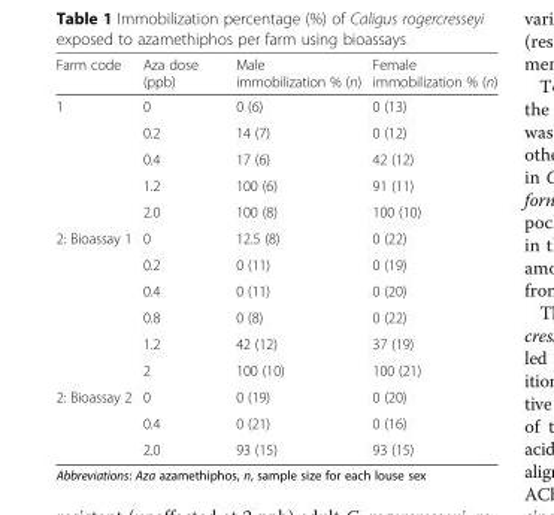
<table><thead><tr><td>Farm code</td><td>Aza dose (ppb)</td><td>Male immobilization % (n)</td><td>Female immobilization % (n)</td></tr></thead><tbody><tr><td rowspan="5">1</td><td>0</td><td>0 (6)</td><td>0 (13)</td></tr><tr><td>0.2</td><td>14 (7)</td><td>0 (12)</td></tr><tr><td>0.4</td><td>17 (6)</td><td>42 (12)</td></tr><tr><td>1.2</td><td>100 (6)</td><td>91 (11)</td></tr><tr><td>2.0</td><td>100 (8)</td><td>100 (10)</td></tr><tr><td rowspan="6">2: Bioassay 1</td><td>0</td><td>12.5 (8)</td><td>0 (22)</td></tr><tr><td>0.2</td><td>0 (11)</td><td>0 (19)</td></tr><tr><td>0.4</td><td>0 (11)</td><td>0 (20)</td></tr><tr><td>0.8</td><td>0 (8)</td><td>0 (22)</td></tr><tr><td>1.2</td><td>42 (12)</td><td>37 (19)</td></tr><tr><td>2</td><td>100 (10)</td><td>100 (21)</td></tr><tr><td rowspan="3">2: Bioassay 2</td><td>0</td><td>0 (19)</td><td>0 (20)</td></tr><tr><td>0.4</td><td>0 (21)</td><td>0 (16)</td></tr><tr><td>2.0</td><td>93 (15)</td><td>93 (15)</td></tr></tbody></table>